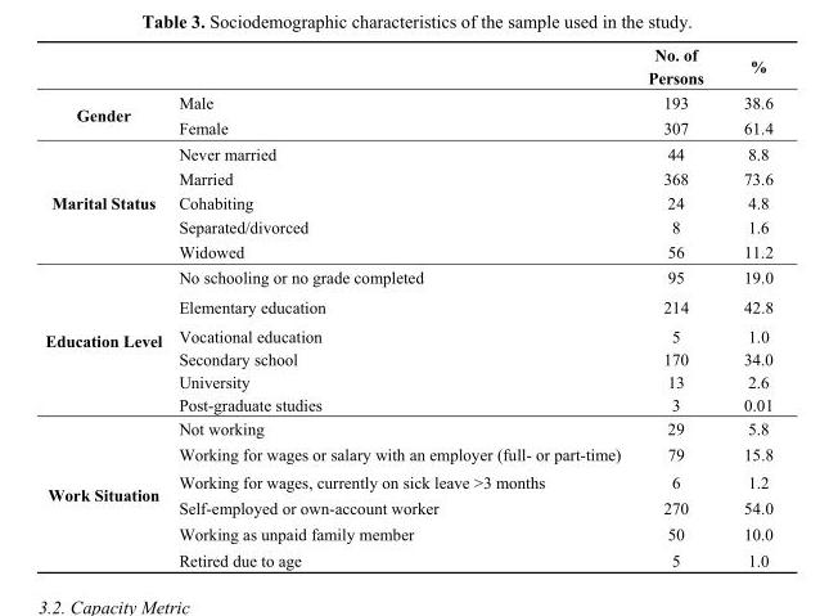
<table><thead><tr><td></td><td></td><td>No. of Persons</td><td>%</td></tr></thead><tbody><tr><td rowspan="2">Gender</td><td>Male</td><td>193</td><td>38.6</td></tr><tr><td>Female</td><td>307</td><td>61.4</td></tr><tr><td rowspan="5">Marital Status</td><td>Never married</td><td>44</td><td>8.8</td></tr><tr><td>Married</td><td>368</td><td>73.6</td></tr><tr><td>Cohabiting</td><td>24</td><td>4.8</td></tr><tr><td>Separated/divorced</td><td>8</td><td>1.6</td></tr><tr><td>Widowed</td><td>56</td><td>11.2</td></tr><tr><td rowspan="6">Education Level</td><td>No schooling or no grade completed</td><td>95</td><td>19.0</td></tr><tr><td>Elementary education</td><td>214</td><td>42.8</td></tr><tr><td>Vocational education</td><td>5</td><td>1.0</td></tr><tr><td>Secondary school</td><td>170</td><td>34.0</td></tr><tr><td>University</td><td>13</td><td>2.6</td></tr><tr><td>Post-graduate studies</td><td>3</td><td>0.01</td></tr><tr><td rowspan="6">Work Situation</td><td>Not working</td><td>29</td><td>5.8</td></tr><tr><td>Working for wages or salary with an employer (full- or part-time)</td><td>79</td><td>15.8</td></tr><tr><td>Working for wages, currently on sick leave &gt;3 months</td><td>6</td><td>1.2</td></tr><tr><td>Self-employed or own-account worker</td><td>270</td><td>54.0</td></tr><tr><td>Working as unpaid family member</td><td>50</td><td>10.0</td></tr><tr><td>Retired due to age</td><td>5</td><td>1.0</td></tr></tbody></table>